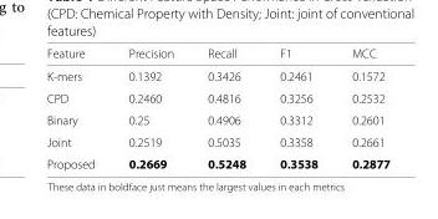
<table><thead><tr><td>Feature</td><td>Precision</td><td>Recall</td><td>F1</td><td>MCC</td></tr></thead><tbody><tr><td>K-mers</td><td>0.1392</td><td>0.3426</td><td>0.2461</td><td>0.1572</td></tr><tr><td>CPD</td><td>0.2460</td><td>0.4816</td><td>0.3256</td><td>0.2532</td></tr><tr><td>Binary</td><td>0.25</td><td>0.4906</td><td>0.3312</td><td>0.2601</td></tr><tr><td>Joint</td><td>0.2519</td><td>0.5035</td><td>0.3358</td><td>0.2661</td></tr><tr><td>Proposed</td><td>0.2669</td><td>0.5248</td><td>0.3538</td><td>0.2877</td></tr></tbody></table>